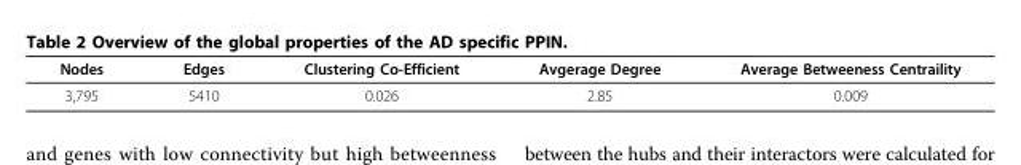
<table><thead><tr><td>Nodes</td><td>Edges</td><td>Clustering Co-Efficient</td><td>Avgerage Degree</td><td>Average Betweeness Centraility</td></tr></thead><tbody><tr><td>3,795</td><td>5410</td><td>0.026</td><td>2.85</td><td>0.009</td></tr></tbody></table>